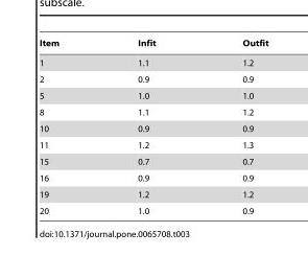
<table><thead><tr><td>Item</td><td>Infit</td><td>Outfit</td></tr></thead><tbody><tr><td>1</td><td>1.1</td><td>1.2</td></tr><tr><td>2</td><td>0.9</td><td>0.9</td></tr><tr><td>5</td><td>1.0</td><td>1.0</td></tr><tr><td>8</td><td>1.1</td><td>1.2</td></tr><tr><td>10</td><td>0.9</td><td>0.9</td></tr><tr><td>11</td><td>1.2</td><td>1.3</td></tr><tr><td>15</td><td>0.7</td><td>0.7</td></tr><tr><td>16</td><td>0.9</td><td>0.9</td></tr><tr><td>19</td><td>1.2</td><td>1.2</td></tr><tr><td>20</td><td>1.0</td><td>0.9</td></tr></tbody></table>